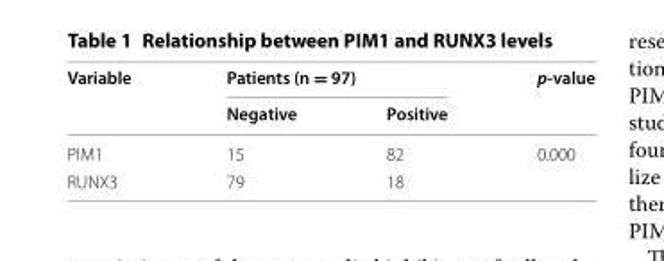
<table><thead><tr><td rowspan="2">Variable</td><td colspan="2">Patients (n = 97)</td><td rowspan="2">p‑value</td></tr><tr><td>Negative</td><td>Positive</td></tr></thead><tbody><tr><td>PIM1</td><td>15</td><td>82</td><td rowspan="2">0.000</td></tr><tr><td>RUNX3</td><td>79</td><td>18</td></tr></tbody></table>